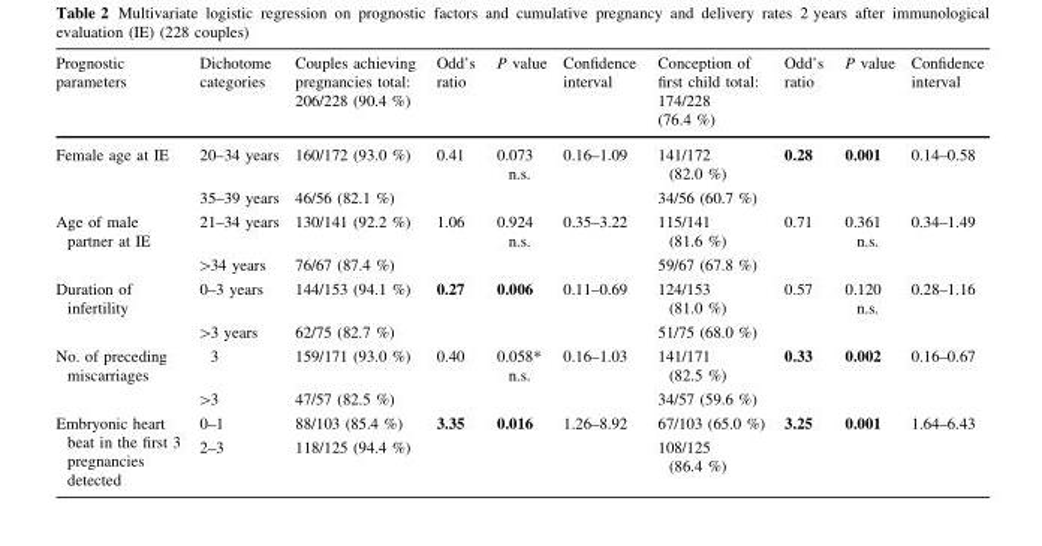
<table><thead><tr><td>Prognostic parameters</td><td>Dichotome categories</td><td>Couples achieving pregnancies total: 206/228 (90.4 %)</td><td>Odd’s ratio</td><td>P value</td><td>Confidence interval</td><td>Conception of first child total: 174/228 (76.4 %)</td><td>Odd’s ratio</td><td>P value</td><td>Confidence interval</td></tr></thead><tbody><tr><td rowspan="2">Female age at IE</td><td>20–34 years</td><td>160/172 (93.0 %)</td><td rowspan="2">0.41</td><td rowspan="2">0.073 n.s.</td><td rowspan="2">0.16–1.09</td><td>141/172 (82.0 %)</td><td rowspan="2">0.28</td><td rowspan="2">0.001</td><td rowspan="2">0.14–0.58</td></tr><tr><td>35–39 years</td><td>46/56 (82.1 %)</td><td>34/56 (60.7 %)</td></tr><tr><td rowspan="2">Age of male partner at IE</td><td>21–34 years</td><td>130/141 (92.2 %)</td><td rowspan="2">1.06</td><td rowspan="2">0.924 n.s.</td><td rowspan="2">0.35–3.22</td><td>115/141 (81.6 %)</td><td rowspan="2">0.71</td><td rowspan="2">0.361 n.s.</td><td rowspan="2">0.34–1.49</td></tr><tr><td>&gt;34 years</td><td>76/67 (87.4 %)</td><td>59/67 (67.8 %)</td></tr><tr><td rowspan="2">Duration of infertility</td><td>0–3 years</td><td>144/153 (94.1 %)</td><td rowspan="2">0.27</td><td rowspan="2">0.006</td><td rowspan="2">0.11–0.69</td><td>124/153 (81.0 %)</td><td rowspan="2">0.57</td><td rowspan="2">0.120 n.s.</td><td rowspan="2">0.28–1.16</td></tr><tr><td>&gt;3 years</td><td>62/75 (82.7 %)</td><td>51/75 (68.0 %)</td></tr><tr><td rowspan="2">No. of preceding miscarriages</td><td>3</td><td>159/171 (93.0 %)</td><td rowspan="2">0.40</td><td rowspan="2">0.058* n.s.</td><td rowspan="2">0.16–1.03</td><td>141/171 (82.5 %)</td><td rowspan="2">0.33</td><td rowspan="2">0.002</td><td rowspan="2">0.16–0.67</td></tr><tr><td>&gt;3</td><td>47/57 (82.5 %)</td><td>34/57 (59.6 %)</td></tr><tr><td rowspan="2">Embryonic heart beat in the first 3 pregnancies detected</td><td>0–1</td><td>88/103 (85.4 %)</td><td rowspan="2">3.35</td><td rowspan="2">0.016</td><td rowspan="2">1.26–8.92</td><td>67/103 (65.0 %)</td><td rowspan="2">3.25</td><td rowspan="2">0.001</td><td rowspan="2">1.64–6.43</td></tr><tr><td>2–3</td><td>118/125 (94.4 %)</td><td>108/125 (86.4 %)</td></tr></tbody></table>